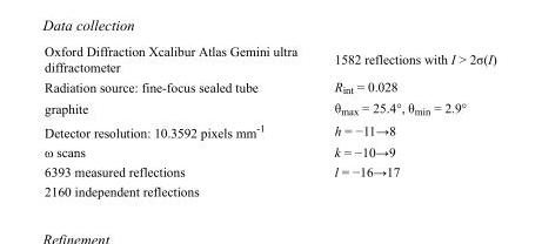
<table><tbody><tr><td>Oxford Diffraction Xcalibur Atlas Gemini ultra diffractometer</td><td>1582 reflections with I &gt; 2σ(I)</td></tr><tr><td>Radiation source: fine-focus sealed tube</td><td>R<sub>int</sub> = 0.028</td></tr><tr><td>graphite</td><td>θ<sub>max</sub> = 25.4°, θ<sub>min</sub> = 2.9°</td></tr><tr><td>Detector resolution: 10.3592 pixels mm<sup>-1</sup></td><td>h = −11→8</td></tr><tr><td>ω scans</td><td>k = −10→9</td></tr><tr><td>6393 measured reflections</td><td>l = −16→17</td></tr><tr><td>2160 independent reflections</td><td></td></tr></tbody></table>